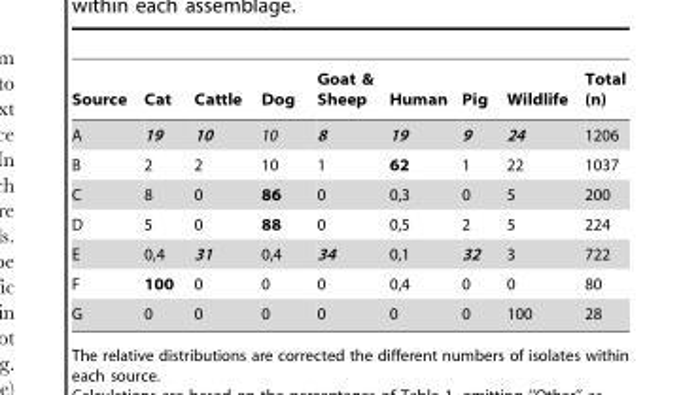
<table><thead><tr><td>Source</td><td>Cat</td><td>Cattle</td><td>Dog</td><td>Goat &amp; Sheep</td><td>Human</td><td>Pig</td><td>Wildlife</td><td>Total (n)</td></tr></thead><tbody><tr><td>A</td><td>19</td><td>10</td><td>10</td><td>8</td><td>19</td><td>9</td><td>24</td><td>1206</td></tr><tr><td>B</td><td>2</td><td>2</td><td>10</td><td>1</td><td>62</td><td>1</td><td>22</td><td>1037</td></tr><tr><td>C</td><td>8</td><td>0</td><td>86</td><td>0</td><td>0,3</td><td>0</td><td>5</td><td>200</td></tr><tr><td>D</td><td>5</td><td>0</td><td>88</td><td>0</td><td>0,5</td><td>2</td><td>5</td><td>224</td></tr><tr><td>E</td><td>0,4</td><td>31</td><td>0,4</td><td>34</td><td>0,1</td><td>32</td><td>3</td><td>722</td></tr><tr><td>F</td><td>100</td><td>0</td><td>0</td><td>0</td><td>0,4</td><td>0</td><td>0</td><td>80</td></tr><tr><td>G</td><td>0</td><td>0</td><td>0</td><td>0</td><td>0</td><td>0</td><td>100</td><td>28</td></tr></tbody></table>